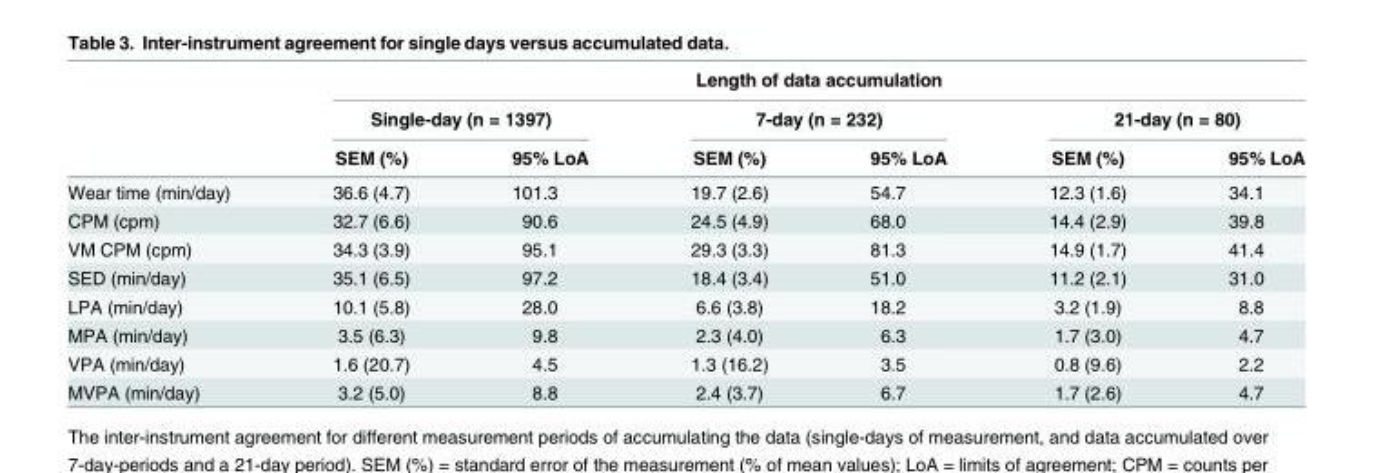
<table><thead><tr><td rowspan="3"></td><td colspan="6">Length of data accumulation</td></tr><tr><td colspan="2">Single-day (n = 1397)</td><td colspan="2">7-day (n = 232)</td><td colspan="2">21-day (n = 80)</td></tr><tr><td>SEM (%)</td><td>95% LoA</td><td>SEM (%)</td><td>95% LoA</td><td>SEM (%)</td><td>95% LoA</td></tr></thead><tbody><tr><td>Wear time (min/day)</td><td>36.6 (4.7)</td><td>101.3</td><td>19.7 (2.6)</td><td>54.7</td><td>12.3 (1.6)</td><td>34.1</td></tr><tr><td>CPM (cpm)</td><td>32.7 (6.6)</td><td>90.6</td><td>24.5 (4.9)</td><td>68.0</td><td>14.4 (2.9)</td><td>39.8</td></tr><tr><td>VM CPM (cpm)</td><td>34.3 (3.9)</td><td>95.1</td><td>29.3 (3.3)</td><td>81.3</td><td>14.9 (1.7)</td><td>41.4</td></tr><tr><td>SED (min/day)</td><td>35.1 (6.5)</td><td>97.2</td><td>18.4 (3.4)</td><td>51.0</td><td>11.2 (2.1)</td><td>31.0</td></tr><tr><td>LPA (min/day)</td><td>10.1 (5.8)</td><td>28.0</td><td>6.6 (3.8)</td><td>18.2</td><td>3.2 (1.9)</td><td>8.8</td></tr><tr><td>MPA (min/day)</td><td>3.5 (6.3)</td><td>9.8</td><td>2.3 (4.0)</td><td>6.3</td><td>1.7 (3.0)</td><td>4.7</td></tr><tr><td>VPA (min/day)</td><td>1.6 (20.7)</td><td>4.5</td><td>1.3 (16.2)</td><td>3.5</td><td>0.8 (9.6)</td><td>2.2</td></tr><tr><td>MVPA (min/day)</td><td>3.2 (5.0)</td><td>8.8</td><td>2.4 (3.7)</td><td>6.7</td><td>1.7 (2.6)</td><td>4.7</td></tr></tbody></table>